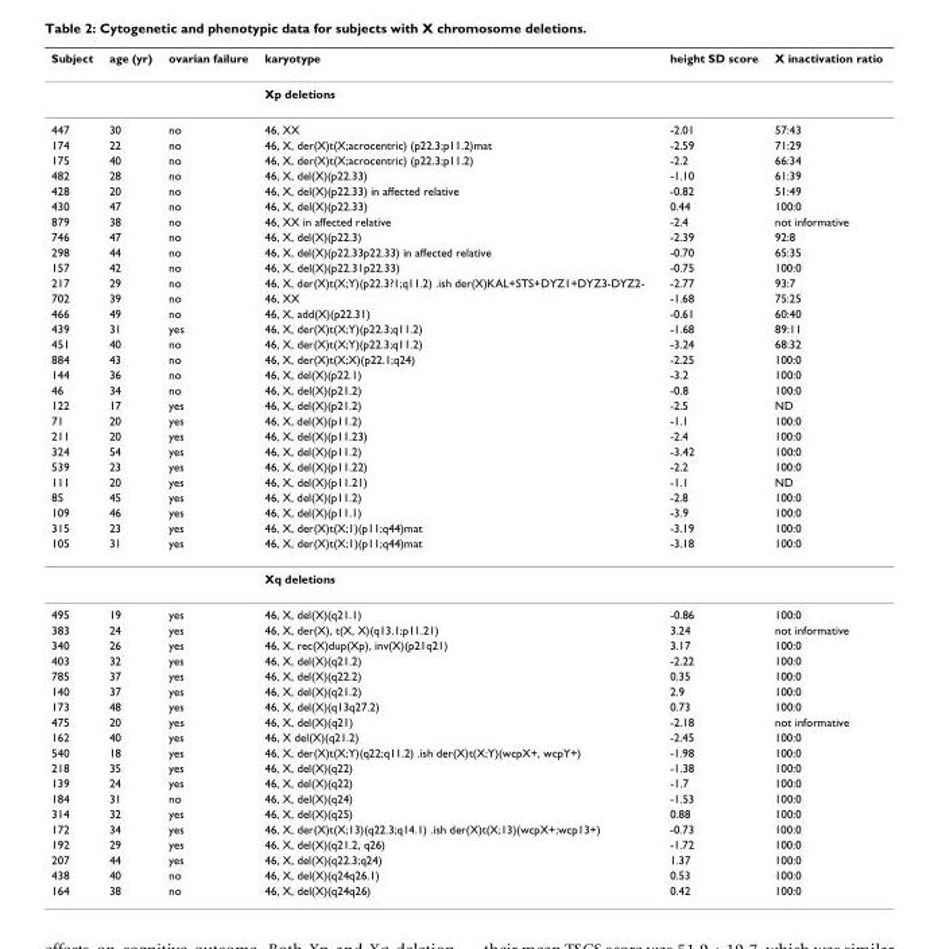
<table><thead><tr><td>Subject</td><td>age (yr)</td><td>ovarian failure</td><td>karyotype</td><td>height SD score</td><td>X inactivation ratio</td></tr></thead><tbody><tr><td></td><td></td><td></td><td>Xp deletions</td><td></td><td></td></tr><tr><td>447</td><td>30</td><td>no</td><td>46, XX</td><td>-2.01</td><td>57:43</td></tr><tr><td>174</td><td>22</td><td>no</td><td>46, X, der(X)t(X;acrocentric) (p22.3;p11.2)mat</td><td>-2.59</td><td>71:29</td></tr><tr><td>175</td><td>40</td><td>no</td><td>46, X, der(X)t(X;acrocentric) (p22.3;p11.2)</td><td>-2.2</td><td>66:34</td></tr><tr><td>482</td><td>28</td><td>no</td><td>46, X, del(X)(p22.33)</td><td>-1.10</td><td>61:39</td></tr><tr><td>428</td><td>20</td><td>no</td><td>46, X, del(X)(p22.33) in affected relative</td><td>-0.82</td><td>51:49</td></tr><tr><td>430</td><td>47</td><td>no</td><td>46, X, del(X)(p22.33)</td><td>0.44</td><td>100:0</td></tr><tr><td>879</td><td>38</td><td>no</td><td>46, XX in affected relative</td><td>-2.4</td><td>not informative</td></tr><tr><td>746</td><td>47</td><td>no</td><td>46, X, del(X)(p22.3)</td><td>-2.39</td><td>92:8</td></tr><tr><td>298</td><td>44</td><td>no</td><td>46, X, del(X)(p22.33p22.33) in affected relative</td><td>-0.70</td><td>65:35</td></tr><tr><td>157</td><td>42</td><td>no</td><td>46, X, del(X)(p22.31p22.33)</td><td>-0.75</td><td>100:0</td></tr><tr><td>217</td><td>29</td><td>no</td><td>46, X, der(X)t(X;Y)(p22.3?1;q11.2) .ish der(X)KAL+STS+DYZ1+DYZ3-DYZ2-</td><td>-2.77</td><td>93:7</td></tr><tr><td>702</td><td>39</td><td>no</td><td>46, XX</td><td>-1.68</td><td>75:25</td></tr><tr><td>466</td><td>49</td><td>no</td><td>46, X, add(X)(p22.31)</td><td>-0.61</td><td>60:40</td></tr><tr><td>439</td><td>31</td><td>yes</td><td>46, X, der(X)t(X;Y)(p22.3;q11.2)</td><td>-1.68</td><td>89:11</td></tr><tr><td>451</td><td>40</td><td>no</td><td>46, X, der(X)t(X;Y)(p22.3;q11.2)</td><td>-3.24</td><td>68:32</td></tr><tr><td>884</td><td>43</td><td>no</td><td>46, X, der(X)t(X;X)(p22.1;q24)</td><td>-2.25</td><td>100:0</td></tr><tr><td>144</td><td>36</td><td>no</td><td>46, X, del(X)(p22.1)</td><td>-3.2</td><td>100:0</td></tr><tr><td>46</td><td>34</td><td>no</td><td>46, X, del(X)(p21.2)</td><td>-0.8</td><td>100:0</td></tr><tr><td>122</td><td>17</td><td>yes</td><td>46, X, del(X)(p21.2)</td><td>-2.5</td><td>ND</td></tr><tr><td>71</td><td>20</td><td>yes</td><td>46, X, del(X)(p11.2)</td><td>-1.1</td><td>100:0</td></tr><tr><td>211</td><td>20</td><td>yes</td><td>46, X, del(X)(p11.23)</td><td>-2.4</td><td>100:0</td></tr><tr><td>324</td><td>54</td><td>yes</td><td>46, X, del(X)(p11.2)</td><td>-3.42</td><td>100:0</td></tr><tr><td>539</td><td>23</td><td>yes</td><td>46, X, del(X)(p11.22)</td><td>-2.2</td><td>100:0</td></tr><tr><td>111</td><td>20</td><td>yes</td><td>46, X, del(X)(p11.21)</td><td>-1.1</td><td>ND</td></tr><tr><td>85</td><td>45</td><td>yes</td><td>46, X, del(X)(p11.2)</td><td>-2.8</td><td>100:0</td></tr><tr><td>109</td><td>46</td><td>yes</td><td>46, X, del(X)(p11.1)</td><td>-3.9</td><td>100:0</td></tr><tr><td>315</td><td>23</td><td>yes</td><td>46, X, der(X)t(X;1)(p11;q44)mat</td><td>-3.19</td><td>100:0</td></tr><tr><td rowspan="2">105</td><td>31</td><td>yes</td><td>46, X, der(X)t(X;1)(p11;q44)mat</td><td>-3.18</td><td>100:0</td></tr><tr><td></td><td></td><td>Xq deletions</td><td></td><td></td></tr><tr><td>495</td><td>19</td><td>yes</td><td>46, X, del(X)(q21.1)</td><td>-0.86</td><td>100:0</td></tr><tr><td>383</td><td>24</td><td>yes</td><td>46, X, der(X), t(X, X)(q13.1;p11.21)</td><td>3.24</td><td>not informative</td></tr><tr><td>340</td><td>26</td><td>yes</td><td>46, X, rec(X)dup(Xp), inv(X)(p21q21)</td><td>3.17</td><td>100:0</td></tr><tr><td>403</td><td>32</td><td>yes</td><td>46, X, del(X)(q21.2)</td><td>-2.22</td><td>100:0</td></tr><tr><td>785</td><td>37</td><td>yes</td><td>46, X, del(X)(q22.2)</td><td>0.35</td><td>100:0</td></tr><tr><td>140</td><td>37</td><td>yes</td><td>46, X, del(X)(q21.2)</td><td>2.9</td><td>100:0</td></tr><tr><td>173</td><td>48</td><td>yes</td><td>46, X, del(X)(q13q27.2)</td><td>0.73</td><td>100:0</td></tr><tr><td>475</td><td>20</td><td>yes</td><td>46, X, del(X)(q21)</td><td>-2.18</td><td>not informative</td></tr><tr><td>162</td><td>40</td><td>yes</td><td>46, X del(X)(q21.2)</td><td>-2.45</td><td>100:0</td></tr><tr><td>540</td><td>18</td><td>yes</td><td>46, X, der(X)t(X;Y)(q22;q11.2) .ish der(X)t(X;Y)(wcpX+, wcpY+)</td><td>-1.98</td><td>100:0</td></tr><tr><td>218</td><td>35</td><td>yes</td><td>46, X, del(X)(q22)</td><td>-1.38</td><td>100:0</td></tr><tr><td>139</td><td>24</td><td>yes</td><td>46, X, del(X)(q22)</td><td>-1.7</td><td>100:0</td></tr><tr><td>184</td><td>31</td><td>no</td><td>46, X, del(X)(q24)</td><td>-1.53</td><td>100:0</td></tr><tr><td>314</td><td>32</td><td>yes</td><td>46, X, del(X)(q25)</td><td>0.88</td><td>100:0</td></tr><tr><td>172</td><td>34</td><td>yes</td><td>46, X, der(X)t(X;13)(q22.3;q14.1) .ish der(X)t(X;13)(wcpX+;wcp13+)</td><td>-0.73</td><td>100:0</td></tr><tr><td>192</td><td>29</td><td>yes</td><td>46, X, del(X)(q21.2, q26)</td><td>-1.72</td><td>100:0</td></tr><tr><td>207</td><td>44</td><td>yes</td><td>46, X, del(X)(q22.3;q24)</td><td>1.37</td><td>100:0</td></tr><tr><td>438</td><td>40</td><td>no</td><td>46, X, del(X)(q24q26.1)</td><td>0.53</td><td>100:0</td></tr><tr><td>164</td><td>38</td><td>no</td><td>46, X, del(X)(q24q26)</td><td>0.42</td><td>100:0</td></tr></tbody></table>